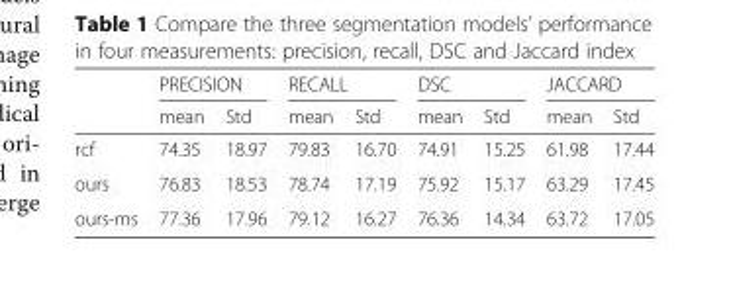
<table><thead><tr><td rowspan="2"></td><td colspan="2">PRECISION</td><td colspan="2">RECALL</td><td colspan="2">DSC</td><td colspan="2">JACCARD</td></tr><tr><td>mean</td><td>Std</td><td>mean</td><td>Std</td><td>mean</td><td>Std</td><td>mean</td><td>Std</td></tr></thead><tbody><tr><td>rcf</td><td>74.35</td><td>18.97</td><td>79.83</td><td>16.70</td><td>74.91</td><td>15.25</td><td>61.98</td><td>17.44</td></tr><tr><td>ours</td><td>76.83</td><td>18.53</td><td>78.74</td><td>17.19</td><td>75.92</td><td>15.17</td><td>63.29</td><td>17.45</td></tr><tr><td>ours-ms</td><td>77.36</td><td>17.96</td><td>79.12</td><td>16.27</td><td>76.36</td><td>14.34</td><td>63.72</td><td>17.05</td></tr></tbody></table>